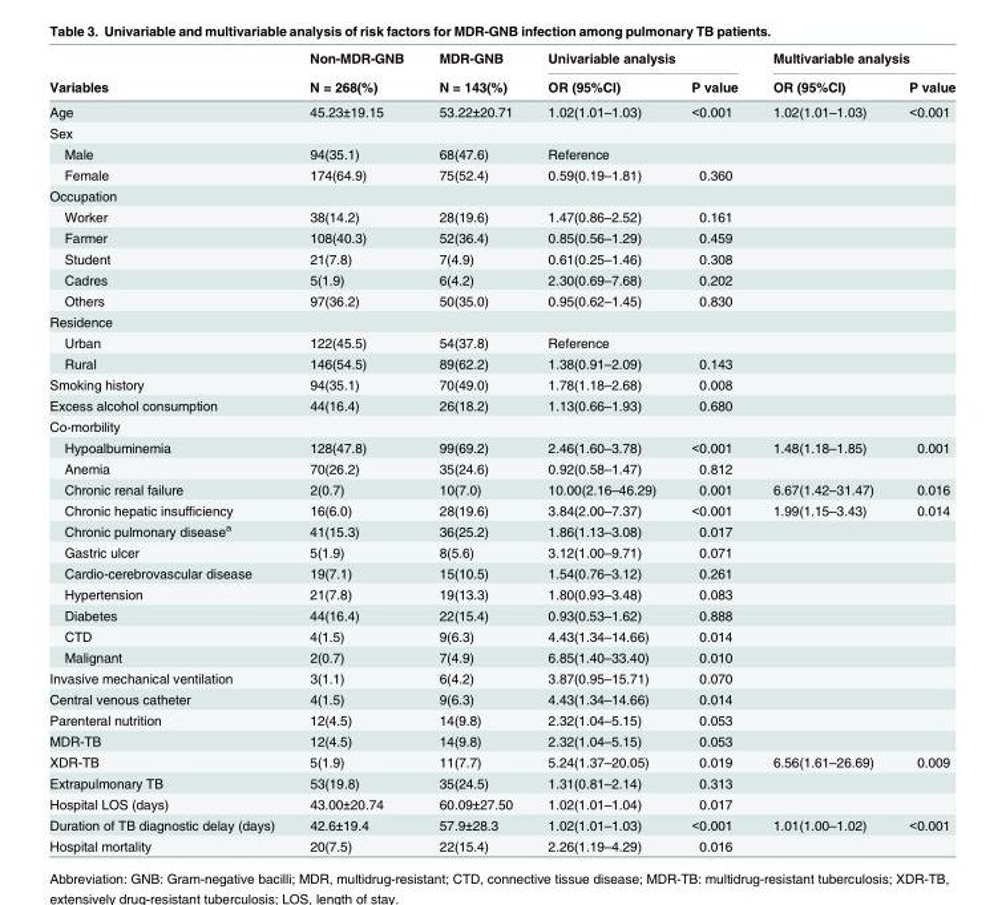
<table><thead><tr><td rowspan="2">Variables</td><td rowspan="2">Non-MDR-GNB N = 268(%)</td><td rowspan="2">MDR-GNB N = 143(%)</td><td colspan="2">Univariable analysis</td><td colspan="2">Multivariable analysis</td></tr><tr><td>OR (95%CI)</td><td>P value</td><td>OR (95%CI)</td><td>P value</td></tr></thead><tbody><tr><td>Age</td><td>45.23±19.15</td><td>53.22±20.71</td><td>1.02(1.01–1.03)</td><td>&lt;0.001</td><td>1.02(1.01–1.03)</td><td>&lt;0.001</td></tr><tr><td colspan="7">Sex</td></tr><tr><td>Male</td><td>94(35.1)</td><td>68(47.6)</td><td>Reference</td><td></td><td></td><td></td></tr><tr><td>Female</td><td>174(64.9)</td><td>75(52.4)</td><td>0.59(0.19–1.81)</td><td>0.360</td><td></td><td></td></tr><tr><td colspan="7">Occupation</td></tr><tr><td>Worker</td><td>38(14.2)</td><td>28(19.6)</td><td>1.47(0.86–2.52)</td><td>0.161</td><td></td><td></td></tr><tr><td>Farmer</td><td>108(40.3)</td><td>52(36.4)</td><td>0.85(0.56–1.29)</td><td>0.459</td><td></td><td></td></tr><tr><td>Student</td><td>21(7.8)</td><td>7(4.9)</td><td>0.61(0.25–1.46)</td><td>0.308</td><td></td><td></td></tr><tr><td>Cadres</td><td>5(1.9)</td><td>6(4.2)</td><td>2.30(0.69–7.68)</td><td>0.202</td><td></td><td></td></tr><tr><td>Others</td><td>97(36.2)</td><td>50(35.0)</td><td>0.95(0.62–1.45)</td><td>0.830</td><td></td><td></td></tr><tr><td colspan="7">Residence</td></tr><tr><td>Urban</td><td>122(45.5)</td><td>54(37.8)</td><td>Reference</td><td></td><td></td><td></td></tr><tr><td>Rural</td><td>146(54.5)</td><td>89(62.2)</td><td>1.38(0.91–2.09)</td><td>0.143</td><td></td><td></td></tr><tr><td>Smoking history</td><td>94(35.1)</td><td>70(49.0)</td><td>1.78(1.18–2.68)</td><td>0.008</td><td></td><td></td></tr><tr><td>Excess alcohol consumption</td><td>44(16.4)</td><td>26(18.2)</td><td>1.13(0.66–1.93)</td><td>0.680</td><td></td><td></td></tr><tr><td colspan="7">Co-morbility</td></tr><tr><td>Hypoalbuminemia</td><td>128(47.8)</td><td>99(69.2)</td><td>2.46(1.60–3.78)</td><td>&lt;0.001</td><td>1.48(1.18–1.85)</td><td>0.001</td></tr><tr><td>Anemia</td><td>70(26.2)</td><td>35(24.6)</td><td>0.92(0.58–1.47)</td><td>0.812</td><td></td><td></td></tr><tr><td>Chronic renal failure</td><td>2(0.7)</td><td>10(7.0)</td><td>10.00(2.16–46.29)</td><td>0.001</td><td>6.67(1.42–31.47)</td><td>0.016</td></tr><tr><td>Chronic hepatic insufficiency</td><td>16(6.0)</td><td>28(19.6)</td><td>3.84(2.00–7.37)</td><td>&lt;0.001</td><td>1.99(1.15–3.43)</td><td>0.014</td></tr><tr><td>Chronic pulmonary disease<sup>a</sup></td><td>41(15.3)</td><td>36(25.2)</td><td>1.86(1.13–3.08)</td><td>0.017</td><td></td><td></td></tr><tr><td>Gastric ulcer</td><td>5(1.9)</td><td>8(5.6)</td><td>3.12(1.00–9.71)</td><td>0.071</td><td></td><td></td></tr><tr><td>Cardio-cerebrovascular disease</td><td>19(7.1)</td><td>15(10.5)</td><td>1.54(0.76–3.12)</td><td>0.261</td><td></td><td></td></tr><tr><td>Hypertension</td><td>21(7.8)</td><td>19(13.3)</td><td>1.80(0.93–3.48)</td><td>0.083</td><td></td><td></td></tr><tr><td>Diabetes</td><td>44(16.4)</td><td>22(15.4)</td><td>0.93(0.53–1.62)</td><td>0.888</td><td></td><td></td></tr><tr><td>CTD</td><td>4(1.5)</td><td>9(6.3)</td><td>4.43(1.34–14.66)</td><td>0.014</td><td></td><td></td></tr><tr><td>Malignant</td><td>2(0.7)</td><td>7(4.9)</td><td>6.85(1.40–33.40)</td><td>0.010</td><td></td><td></td></tr><tr><td>Invasive mechanical ventilation</td><td>3(1.1)</td><td>6(4.2)</td><td>3.87(0.95–15.71)</td><td>0.070</td><td></td><td></td></tr><tr><td>Central venous catheter</td><td>4(1.5)</td><td>9(6.3)</td><td>4.43(1.34–14.66)</td><td>0.014</td><td></td><td></td></tr><tr><td>Parenteral nutrition</td><td>12(4.5)</td><td>14(9.8)</td><td>2.32(1.04–5.15)</td><td>0.053</td><td></td><td></td></tr><tr><td>MDR-TB</td><td>12(4.5)</td><td>14(9.8)</td><td>2.32(1.04–5.15)</td><td>0.053</td><td></td><td></td></tr><tr><td>XDR-TB</td><td>5(1.9)</td><td>11(7.7)</td><td>5.24(1.37–20.05)</td><td>0.019</td><td>6.56(1.61–26.69)</td><td>0.009</td></tr><tr><td>Extrapulmonary TB</td><td>53(19.8)</td><td>35(24.5)</td><td>1.31(0.81–2.14)</td><td>0.313</td><td></td><td></td></tr><tr><td>Hospital LOS (days)</td><td>43.00±20.74</td><td>60.09±27.50</td><td>1.02(1.01–1.04)</td><td>0.017</td><td></td><td></td></tr><tr><td>Duration of TB diagnostic delay (days)</td><td>42.6±19.4</td><td>57.9±28.3</td><td>1.02(1.01–1.03)</td><td>&lt;0.001</td><td>1.01(1.00–1.02)</td><td>&lt;0.001</td></tr><tr><td>Hospital mortality</td><td>20(7.5)</td><td>22(15.4)</td><td>2.26(1.19–4.29)</td><td>0.016</td><td></td><td></td></tr></tbody></table>